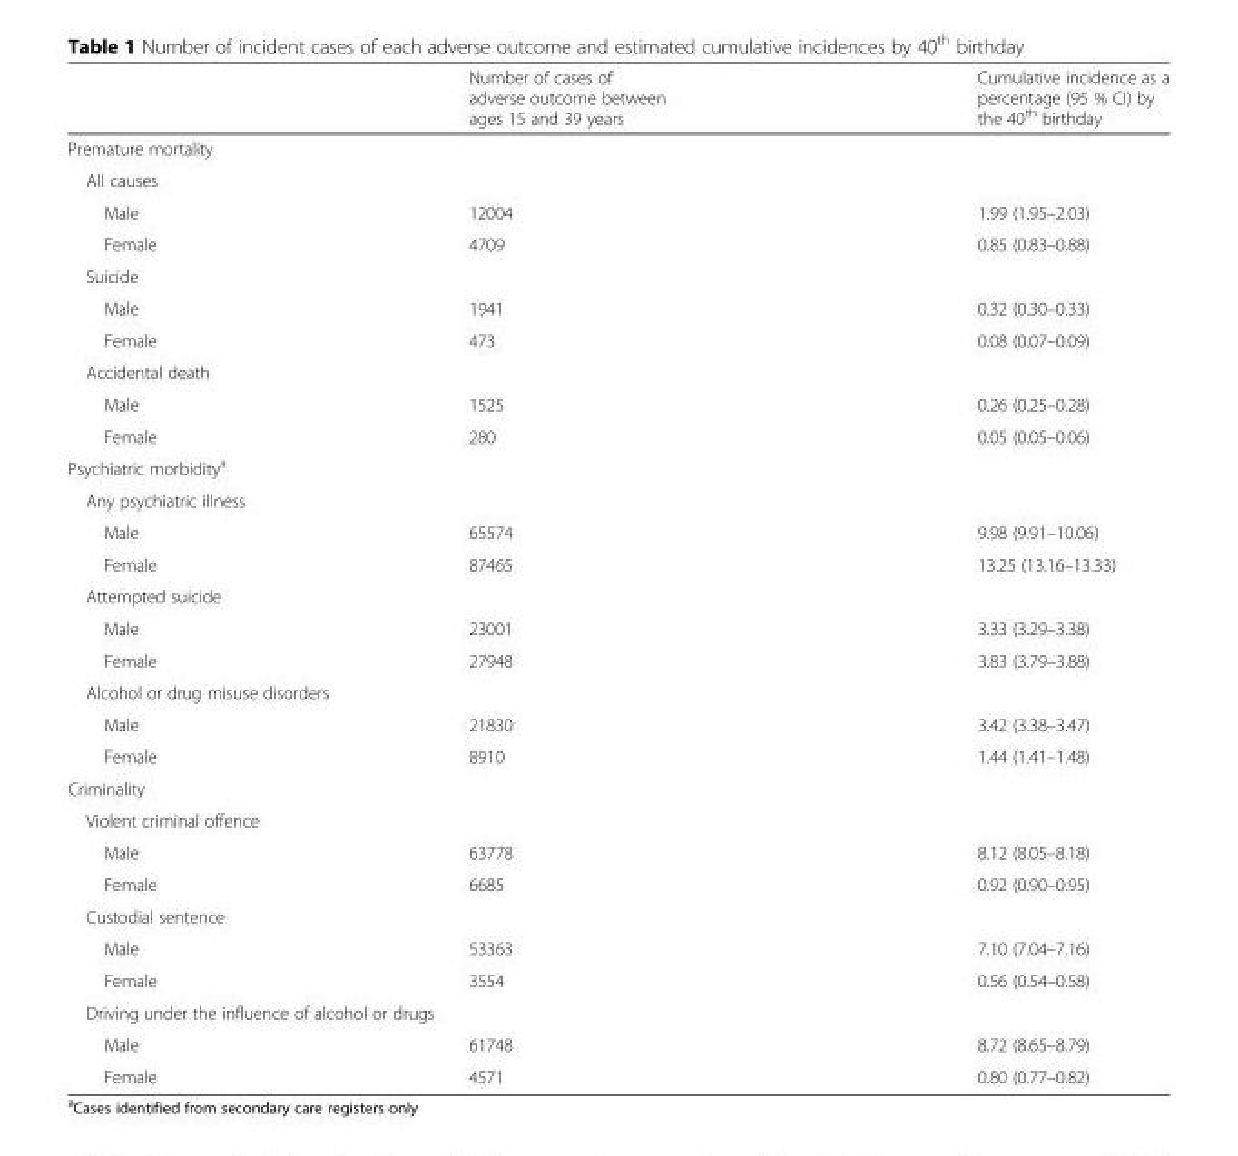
<table><thead><tr><td></td><td>Number of cases of adverse outcome between ages 15 and 39 years</td><td>Cumulative incidence as a percentage (95 % CI) by the 40<sup>th</sup> birthday</td></tr></thead><tbody><tr><td colspan="3">Premature mortality</td></tr><tr><td colspan="3">All causes</td></tr><tr><td>Male</td><td>12004</td><td>1.99 (1.95–2.03)</td></tr><tr><td>Female</td><td>4709</td><td>0.85 (0.83–0.88)</td></tr><tr><td colspan="3">Suicide</td></tr><tr><td>Male</td><td>1941</td><td>0.32 (0.30–0.33)</td></tr><tr><td>Female</td><td>473</td><td>0.08 (0.07–0.09)</td></tr><tr><td colspan="3">Accidental death</td></tr><tr><td>Male</td><td>1525</td><td>0.26 (0.25–0.28)</td></tr><tr><td>Female</td><td>280</td><td>0.05 (0.05–0.06)</td></tr><tr><td colspan="3">Psychiatric morbidity<sup>a</sup></td></tr><tr><td colspan="3">Any psychiatric illness</td></tr><tr><td>Male</td><td>65574</td><td>9.98 (9.91–10.06)</td></tr><tr><td>Female</td><td>87465</td><td>13.25 (13.16–13.33)</td></tr><tr><td colspan="3">Attempted suicide</td></tr><tr><td>Male</td><td>23001</td><td>3.33 (3.29–3.38)</td></tr><tr><td>Female</td><td>27948</td><td>3.83 (3.79–3.88)</td></tr><tr><td colspan="3">Alcohol or drug misuse disorders</td></tr><tr><td>Male</td><td>21830</td><td>3.42 (3.38–3.47)</td></tr><tr><td>Female</td><td>8910</td><td>1.44 (1.41–1.48)</td></tr><tr><td colspan="3">Criminality</td></tr><tr><td colspan="3">Violent criminal offence</td></tr><tr><td>Male</td><td>63778</td><td>8.12 (8.05–8.18)</td></tr><tr><td>Female</td><td>6685</td><td>0.92 (0.90–0.95)</td></tr><tr><td colspan="3">Custodial sentence</td></tr><tr><td>Male</td><td>53363</td><td>7.10 (7.04–7.16)</td></tr><tr><td>Female</td><td>3554</td><td>0.56 (0.54–0.58)</td></tr><tr><td colspan="3">Driving under the influence of alcohol or drugs</td></tr><tr><td>Male</td><td>61748</td><td>8.72 (8.65–8.79)</td></tr><tr><td>Female</td><td>4571</td><td>0.80 (0.77–0.82)</td></tr></tbody></table>